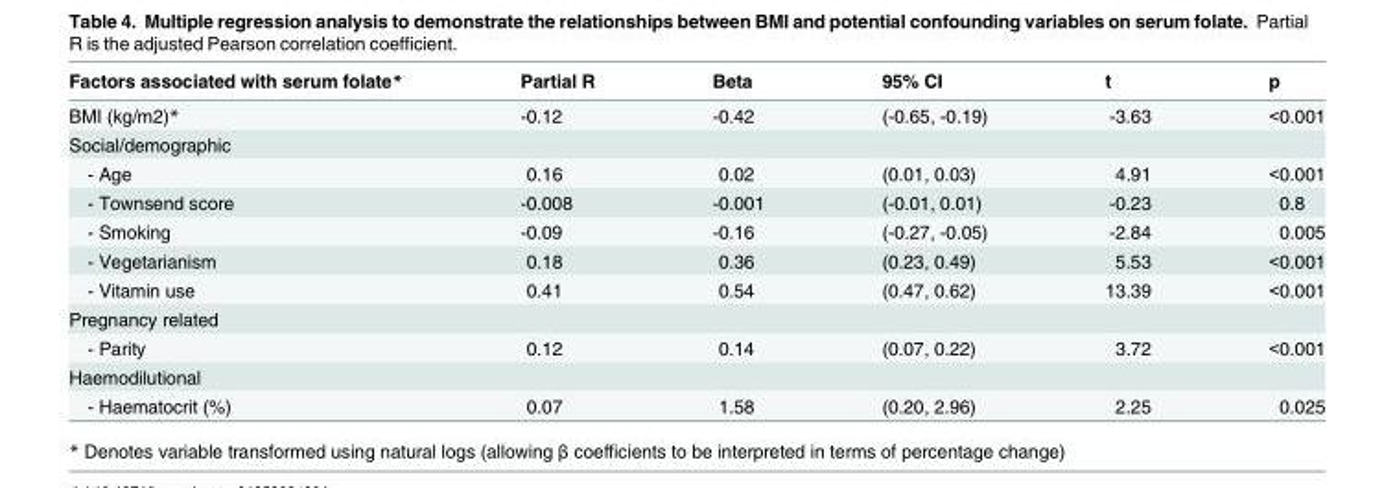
<table><thead><tr><td>Factors associated with serum folate*</td><td>Partial R</td><td>Beta</td><td>95% CI</td><td>t</td><td>p</td></tr></thead><tbody><tr><td>BMI (kg/m2)*</td><td>-0.12</td><td>-0.42</td><td>(-0.65, -0.19)</td><td>-3.63</td><td>&lt;0.001</td></tr><tr><td colspan="6">Social/demographic</td></tr><tr><td>- Age</td><td>0.16</td><td>0.02</td><td>(0.01, 0.03)</td><td>4.91</td><td>&lt;0.001</td></tr><tr><td>- Townsend score</td><td>-0.008</td><td>-0.001</td><td>(-0.01, 0.01)</td><td>-0.23</td><td>0.8</td></tr><tr><td>- Smoking</td><td>-0.09</td><td>-0.16</td><td>(-0.27, -0.05)</td><td>-2.84</td><td>0.005</td></tr><tr><td>- Vegetarianism</td><td>0.18</td><td>0.36</td><td>(0.23, 0.49)</td><td>5.53</td><td>&lt;0.001</td></tr><tr><td>- Vitamin use</td><td>0.41</td><td>0.54</td><td>(0.47, 0.62)</td><td>13.39</td><td>&lt;0.001</td></tr><tr><td colspan="6">Pregnancy related</td></tr><tr><td>- Parity</td><td>0.12</td><td>0.14</td><td>(0.07, 0.22)</td><td>3.72</td><td>&lt;0.001</td></tr><tr><td colspan="6">Haemodilutional</td></tr><tr><td>- Haematocrit (%)</td><td>0.07</td><td>1.58</td><td>(0.20, 2.96)</td><td>2.25</td><td>0.025</td></tr></tbody></table>